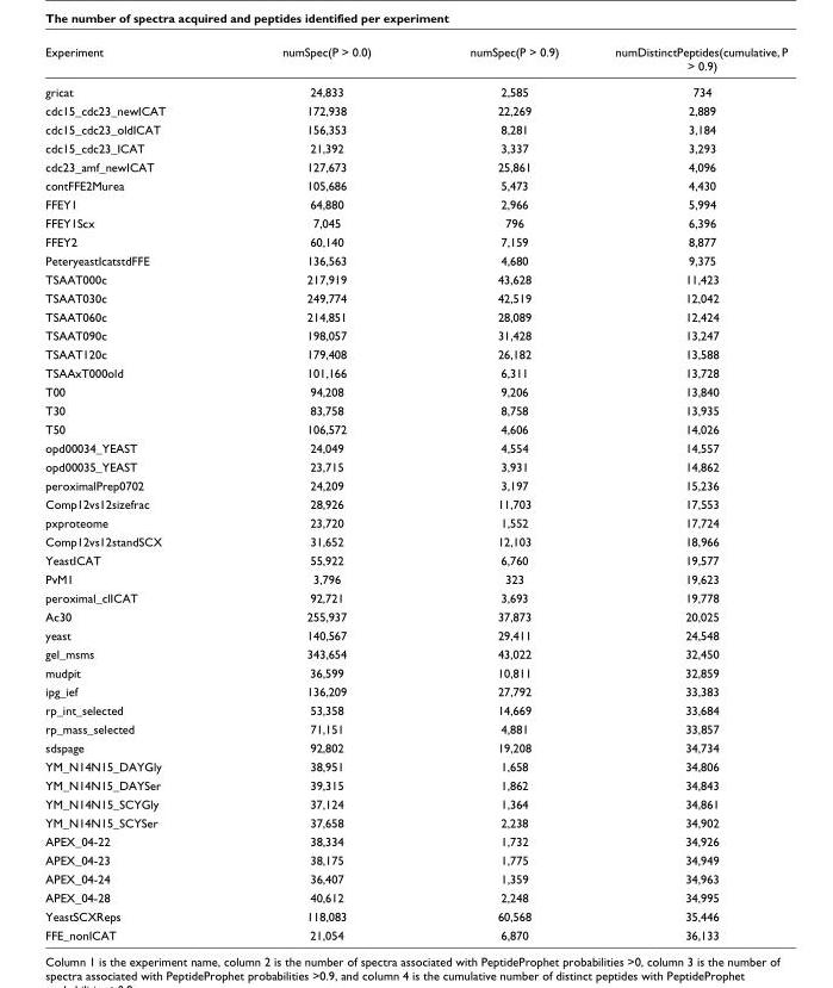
<table><thead><tr><td>Experiment</td><td>numSpec(P &gt; 0.0)</td><td>numSpec(P &gt; 0.9)</td><td>numDistinctPeptides(cumulative, P &gt; 0.9)</td></tr></thead><tbody><tr><td>gricat</td><td>24,833</td><td>2,585</td><td>734</td></tr><tr><td>cdc15_cdc23_newICAT</td><td>172,938</td><td>22,269</td><td>2,889</td></tr><tr><td>cdc15_cdc23_oldICAT</td><td>156,353</td><td>8,281</td><td>3,184</td></tr><tr><td>cdc15_cdc23_ICAT</td><td>21,392</td><td>3,337</td><td>3,293</td></tr><tr><td>cdc23_amf_newICAT</td><td>127,673</td><td>25,861</td><td>4,096</td></tr><tr><td>contFFE2Murea</td><td>105,686</td><td>5,473</td><td>4,430</td></tr><tr><td>FFEY1</td><td>64,880</td><td>2,966</td><td>5,994</td></tr><tr><td>FFEY1Scx</td><td>7,045</td><td>796</td><td>6,396</td></tr><tr><td>FFEY2</td><td>60,140</td><td>7,159</td><td>8,877</td></tr><tr><td>PeteryeastIcatstdFFE</td><td>136,563</td><td>4,680</td><td>9,375</td></tr><tr><td>TSAAT000c</td><td>217,919</td><td>43,628</td><td>11,423</td></tr><tr><td>TSAAT030c</td><td>249,774</td><td>42,519</td><td>12,042</td></tr><tr><td>TSAAT060c</td><td>214,851</td><td>28,089</td><td>12,424</td></tr><tr><td>TSAAT090c</td><td>198,057</td><td>31,428</td><td>13,247</td></tr><tr><td>TSAAT120c</td><td>179,408</td><td>26,182</td><td>13,588</td></tr><tr><td>TSAAxT000old</td><td>101,166</td><td>6,311</td><td>13,728</td></tr><tr><td>T00</td><td>94,208</td><td>9,206</td><td>13,840</td></tr><tr><td>T30</td><td>83,758</td><td>8,758</td><td>13,935</td></tr><tr><td>T50</td><td>106,572</td><td>4,606</td><td>14,026</td></tr><tr><td>opd00034_YEAST</td><td>24,049</td><td>4,554</td><td>14,557</td></tr><tr><td>opd00035_YEAST</td><td>23,715</td><td>3,931</td><td>14,862</td></tr><tr><td>peroximalPrep0702</td><td>24,209</td><td>3,197</td><td>15,236</td></tr><tr><td>Comp12vs12sizefrac</td><td>28,926</td><td>11,703</td><td>17,553</td></tr><tr><td>pxproteome</td><td>23,720</td><td>1,552</td><td>17,724</td></tr><tr><td>Comp12vs12standSCX</td><td>31,652</td><td>12,103</td><td>18,966</td></tr><tr><td>YeastICAT</td><td>55,922</td><td>6,760</td><td>19,577</td></tr><tr><td>PvM1</td><td>3,796</td><td>323</td><td>19,623</td></tr><tr><td>peroximal_clICAT</td><td>92,721</td><td>3,693</td><td>19,778</td></tr><tr><td>Ac30</td><td>255,937</td><td>37,873</td><td>20,025</td></tr><tr><td>yeast</td><td>140,567</td><td>29,411</td><td>24,548</td></tr><tr><td>gel_msms</td><td>343,654</td><td>43,022</td><td>32,450</td></tr><tr><td>mudpit</td><td>36,599</td><td>10,811</td><td>32,859</td></tr><tr><td>ipg_ief</td><td>136,209</td><td>27,792</td><td>33,383</td></tr><tr><td>rp_int_selected</td><td>53,358</td><td>14,669</td><td>33,684</td></tr><tr><td>rp_mass_selected</td><td>71,151</td><td>4,881</td><td>33,857</td></tr><tr><td>sdspage</td><td>92,802</td><td>19,208</td><td>34,734</td></tr><tr><td>YM_N14N15_DAYGly</td><td>38,951</td><td>1,658</td><td>34,806</td></tr><tr><td>YM_N14N15_DAYSer</td><td>39,315</td><td>1,862</td><td>34,843</td></tr><tr><td>YM_N14N15_SCYGly</td><td>37,124</td><td>1,364</td><td>34,861</td></tr><tr><td>YM_N14N15_SCYSer</td><td>37,658</td><td>2,238</td><td>34,902</td></tr><tr><td>APEX_04-22</td><td>38,334</td><td>1,732</td><td>34,926</td></tr><tr><td>APEX_04-23</td><td>38,175</td><td>1,775</td><td>34,949</td></tr><tr><td>APEX_04-24</td><td>36,407</td><td>1,359</td><td>34,963</td></tr><tr><td>APEX_04-28</td><td>40,612</td><td>2,248</td><td>34,995</td></tr><tr><td>YeastSCXReps</td><td>118,083</td><td>60,568</td><td>35,446</td></tr><tr><td>FFE_nonICAT</td><td>21,054</td><td>6,870</td><td>36,133</td></tr></tbody></table>